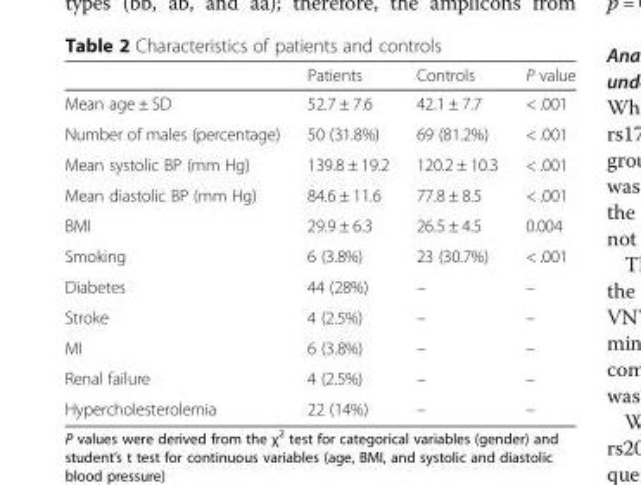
<table><thead><tr><td></td><td>Patients</td><td>Controls</td><td>P value</td></tr></thead><tbody><tr><td>Mean age ± SD</td><td>52.7 ± 7.6</td><td>42.1 ± 7.7</td><td>&lt; .001</td></tr><tr><td>Number of males (percentage)</td><td>50 (31.8%)</td><td>69 (81.2%)</td><td>&lt; .001</td></tr><tr><td>Mean systolic BP (mm Hg)</td><td>139.8 ± 19.2</td><td>120.2 ± 10.3</td><td>&lt; .001</td></tr><tr><td>Mean diastolic BP (mm Hg)</td><td>84.6 ± 11.6</td><td>77.8 ± 8.5</td><td>&lt; .001</td></tr><tr><td>BMI</td><td>29.9 ± 6.3</td><td>26.5 ± 4.5</td><td>0.004</td></tr><tr><td>Smoking</td><td>6 (3.8%)</td><td>23 (30.7%)</td><td>&lt; .001</td></tr><tr><td>Diabetes</td><td>44 (28%)</td><td>–</td><td>–</td></tr><tr><td>Stroke</td><td>4 (2.5%)</td><td>–</td><td>–</td></tr><tr><td>MI</td><td>6 (3.8%)</td><td>–</td><td>–</td></tr><tr><td>Renal failure</td><td>4 (2.5%)</td><td>–</td><td>–</td></tr><tr><td>Hypercholesterolemia</td><td>22 (14%)</td><td>–</td><td>–</td></tr></tbody></table>